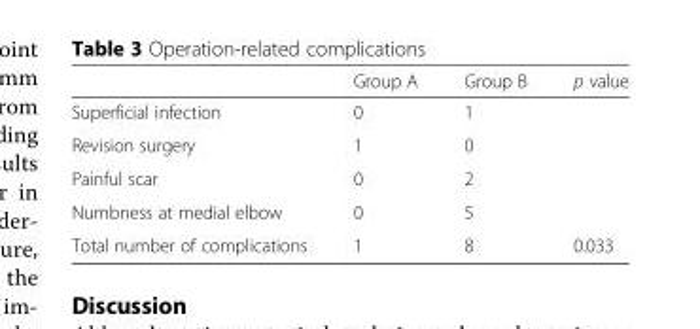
<table><thead><tr><td></td><td>Group A</td><td>Group B</td><td>p value</td></tr></thead><tbody><tr><td>Superficial infection</td><td>0</td><td>1</td><td></td></tr><tr><td>Revision surgery</td><td>1</td><td>0</td><td></td></tr><tr><td>Painful scar</td><td>0</td><td>2</td><td></td></tr><tr><td>Numbness at medial elbow</td><td>0</td><td>5</td><td></td></tr><tr><td>Total number of complications</td><td>1</td><td>8</td><td>0.033</td></tr></tbody></table>